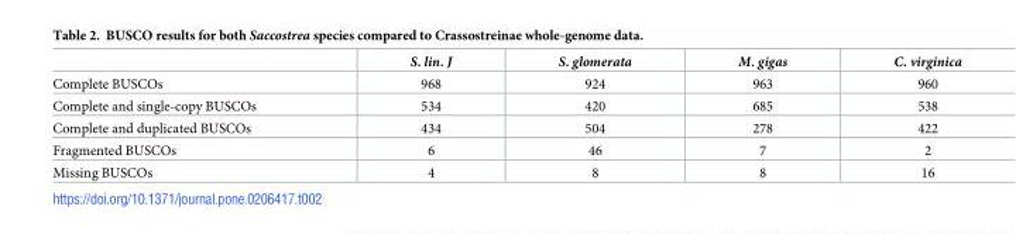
<table><thead><tr><td></td><td>S. lin. J</td><td>S. glomerata</td><td>M. gigas</td><td>C. virginica</td></tr></thead><tbody><tr><td>Complete BUSCOs</td><td>968</td><td>924</td><td>963</td><td>960</td></tr><tr><td>Complete and single-copy BUSCOs</td><td>534</td><td>420</td><td>685</td><td>538</td></tr><tr><td>Complete and duplicated BUSCOs</td><td>434</td><td>504</td><td>278</td><td>422</td></tr><tr><td>Fragmented BUSCOs</td><td>6</td><td>46</td><td>7</td><td>2</td></tr><tr><td>Missing BUSCOs</td><td>4</td><td>8</td><td>8</td><td>16</td></tr></tbody></table>